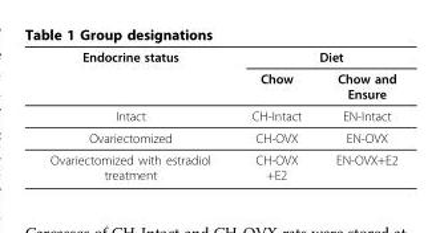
<table><thead><tr><td rowspan="2">Endocrine status</td><td colspan="2">Diet</td></tr><tr><td>Chow</td><td>Chow and Ensure</td></tr></thead><tbody><tr><td>Intact</td><td>CH-Intact</td><td>EN-Intact</td></tr><tr><td>Ovariectomized</td><td>CH-OVX</td><td>EN-OVX</td></tr><tr><td>Ovariectomized with estradiol treatment</td><td>CH-OVX +E2</td><td>EN-OVX+E2</td></tr></tbody></table>